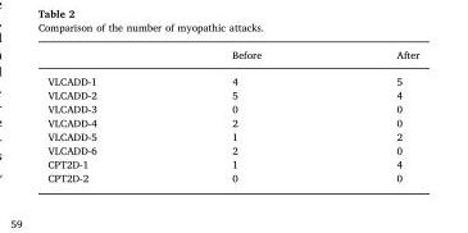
<table><thead><tr><td></td><td>Before</td><td>After</td></tr></thead><tbody><tr><td>VLCADD-1</td><td>4</td><td>5</td></tr><tr><td>VLCADD-2</td><td>5</td><td>4</td></tr><tr><td>VLCADD-3</td><td>0</td><td>0</td></tr><tr><td>VLCADD-4</td><td>2</td><td>0</td></tr><tr><td>VLCADD-5</td><td>1</td><td>2</td></tr><tr><td>VLCADD-6</td><td>2</td><td>0</td></tr><tr><td>CPT2D-1</td><td>1</td><td>4</td></tr><tr><td>CPT2D-2</td><td>0</td><td>0</td></tr></tbody></table>